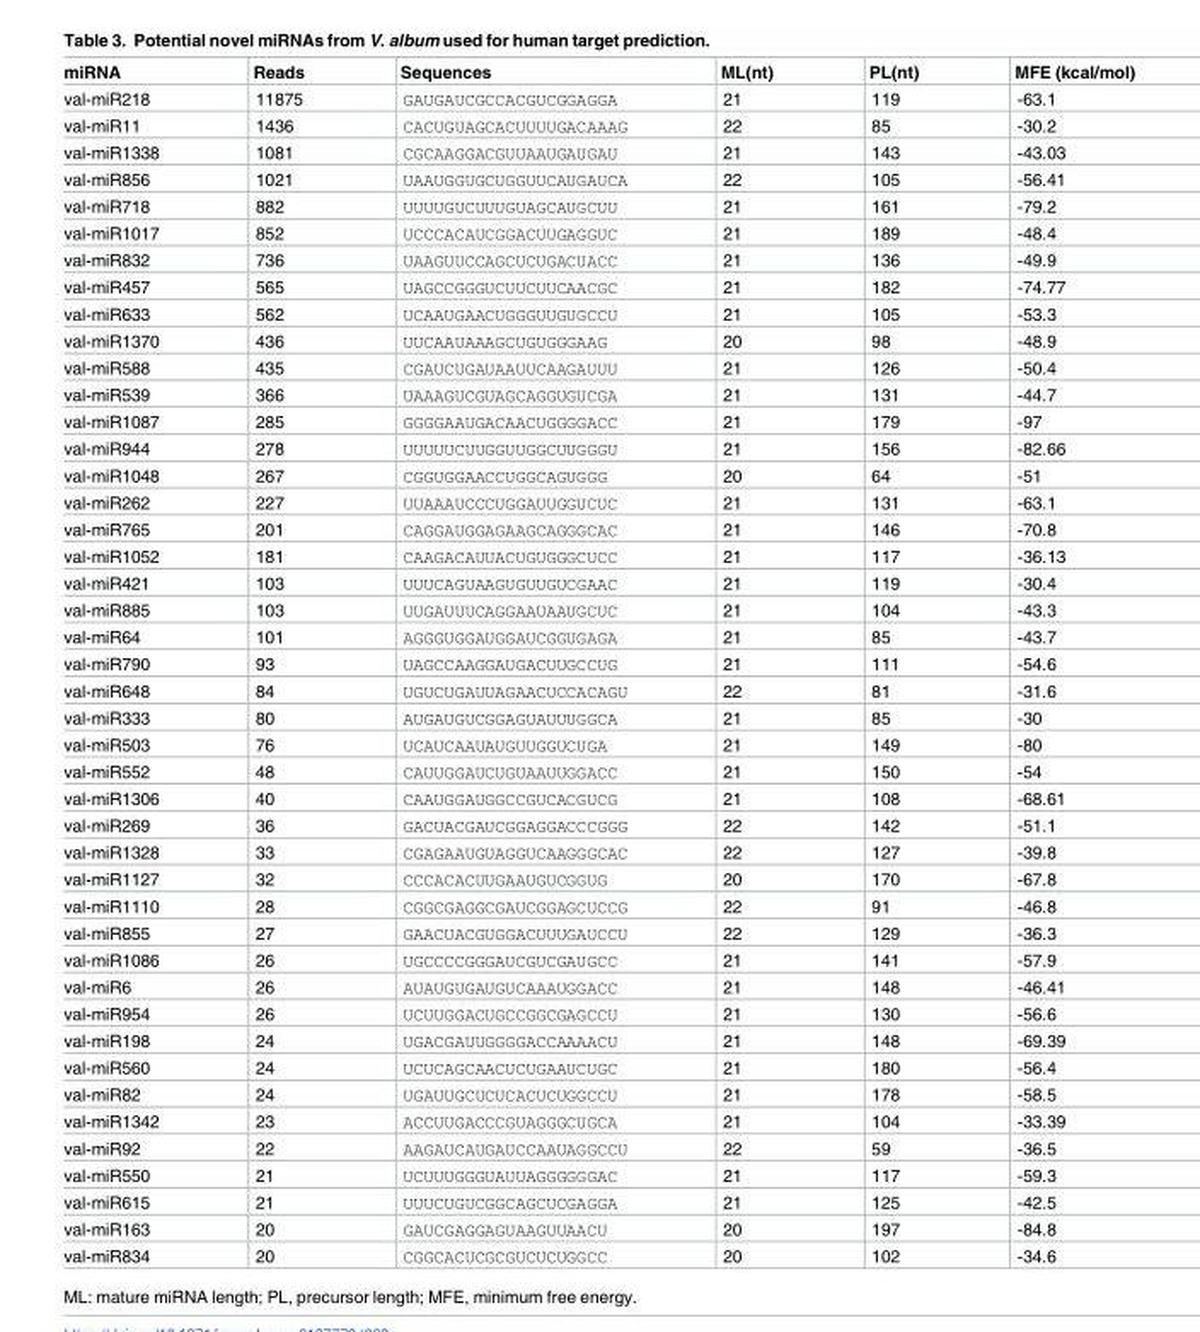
<table><thead><tr><td>miRNA</td><td>Reads</td><td>Sequences</td><td>ML(nt)</td><td>PL(nt)</td><td>MFE (kcal/mol)</td></tr></thead><tbody><tr><td>val-miR218</td><td>11875</td><td>GAUGAUCGCCACGUCGGAGGA</td><td>21</td><td>119</td><td>-63.1</td></tr><tr><td>val-miR11</td><td>1436</td><td>CACUGUAGCACUUUUGACAAAG</td><td>22</td><td>85</td><td>-30.2</td></tr><tr><td>val-miR1338</td><td>1081</td><td>CGCAAGGACGUUAAUGAUGAU</td><td>21</td><td>143</td><td>-43.03</td></tr><tr><td>val-miR856</td><td>1021</td><td>UAAUGGUGCUGGUUCAUGAUCA</td><td>22</td><td>105</td><td>-56.41</td></tr><tr><td>val-miR718</td><td>882</td><td>UUUUGUCUUUGUAGCAUGCUU</td><td>21</td><td>161</td><td>-79.2</td></tr><tr><td>val-miR1017</td><td>852</td><td>UCCCACAUCGGACUUGAGGUC</td><td>21</td><td>189</td><td>-48.4</td></tr><tr><td>val-miR832</td><td>736</td><td>UAAGUUCCAGCUCUGACUACC</td><td>21</td><td>136</td><td>-49.9</td></tr><tr><td>val-miR457</td><td>565</td><td>UAGCCGGGUCUUCUUCAACGC</td><td>21</td><td>182</td><td>-74.77</td></tr><tr><td>val-miR633</td><td>562</td><td>UCAAUGAACUGGGUUGUGCCU</td><td>21</td><td>105</td><td>-53.3</td></tr><tr><td>val-miR1370</td><td>436</td><td>UUCAAUAAAGCUGUGGGAAG</td><td>20</td><td>98</td><td>-48.9</td></tr><tr><td>val-miR588</td><td>435</td><td>CGAUCUGAUAAUUCAAGAUUU</td><td>21</td><td>126</td><td>-50.4</td></tr><tr><td>val-miR539</td><td>366</td><td>UAAAGUCGUAGCAGGUGUCGA</td><td>21</td><td>131</td><td>-44.7</td></tr><tr><td>val-miR1087</td><td>285</td><td>GGGGAAUGACAACUGGGGACC</td><td>21</td><td>179</td><td>-97</td></tr><tr><td>val-miR944</td><td>278</td><td>UUUUUCUUGGUUGGCUUGGGU</td><td>21</td><td>156</td><td>-82.66</td></tr><tr><td>val-miR1048</td><td>267</td><td>CGGUGGAACCUGGCAGUGGG</td><td>20</td><td>64</td><td>-51</td></tr><tr><td>val-miR262</td><td>227</td><td>UUAAAUCCCUGGAUUGGUCUC</td><td>21</td><td>131</td><td>-63.1</td></tr><tr><td>val-miR765</td><td>201</td><td>CAGGAUGGAGAAGCAGGGCAC</td><td>21</td><td>146</td><td>-70.8</td></tr><tr><td>val-miR1052</td><td>181</td><td>CAAGACAUUACUGUGGGCUCC</td><td>21</td><td>117</td><td>-36.13</td></tr><tr><td>val-miR421</td><td>103</td><td>UUUCAGUAAGUGUUGUCGAAC</td><td>21</td><td>119</td><td>-30.4</td></tr><tr><td>val-miR885</td><td>103</td><td>UUGAUUUCAGGAAUAAUGCUC</td><td>21</td><td>104</td><td>-43.3</td></tr><tr><td>val-miR64</td><td>101</td><td>AGGGUGGAUGGAUCGGUGAGA</td><td>21</td><td>85</td><td>-43.7</td></tr><tr><td>val-miR790</td><td>93</td><td>UAGCCAAGGAUGACUUGCCUG</td><td>21</td><td>111</td><td>-54.6</td></tr><tr><td>val-miR648</td><td>84</td><td>UGUCUGAUUAGAACUCCACAGU</td><td>22</td><td>81</td><td>-31.6</td></tr><tr><td>val-miR333</td><td>80</td><td>AUGAUGUCGGAGUAUUUGGCA</td><td>21</td><td>85</td><td>-30</td></tr><tr><td>val-miR503</td><td>76</td><td>UCAUCAAUAUGUUGGUCUGA</td><td>21</td><td>149</td><td>-80</td></tr><tr><td>val-miR552</td><td>48</td><td>CAUUGGAUCUGUAAUUGGACC</td><td>21</td><td>150</td><td>-54</td></tr><tr><td>val-miR1306</td><td>40</td><td>CAAUGGAUGGCCGUCACGUCG</td><td>21</td><td>108</td><td>-68.61</td></tr><tr><td>val-miR269</td><td>36</td><td>GACUACGAUCGGAGGACCCGGG</td><td>22</td><td>142</td><td>-51.1</td></tr><tr><td>val-miR1328</td><td>33</td><td>CGAGAAUGUAGGUCAAGGGCAC</td><td>22</td><td>127</td><td>-39.8</td></tr><tr><td>val-miR1127</td><td>32</td><td>CCCACACUUGAAUGUCGGUG</td><td>20</td><td>170</td><td>-67.8</td></tr><tr><td>val-miR1110</td><td>28</td><td>CGGCGAGGCGAUCGGAGCUCCG</td><td>22</td><td>91</td><td>-46.8</td></tr><tr><td>val-miR855</td><td>27</td><td>GAACUACGUGGACUUUGAUCCU</td><td>22</td><td>129</td><td>-36.3</td></tr><tr><td>val-miR1086</td><td>26</td><td>UGCCCCGGGAUCGUCGAUGCC</td><td>21</td><td>141</td><td>-57.9</td></tr><tr><td>val-miR6</td><td>26</td><td>AUAUGUGAUGUCAAAUGGACC</td><td>21</td><td>148</td><td>-46.41</td></tr><tr><td>val-miR954</td><td>26</td><td>UCUUGGACUGCCGGCGAGCCU</td><td>21</td><td>130</td><td>-56.6</td></tr><tr><td>val-miR198</td><td>24</td><td>UGACGAUUGGGGACCAAAACU</td><td>21</td><td>148</td><td>-69.39</td></tr><tr><td>val-miR560</td><td>24</td><td>UCUCAGCAACUCUGAAUCUGC</td><td>21</td><td>180</td><td>-56.4</td></tr><tr><td>val-miR82</td><td>24</td><td>UGAUUGCUCUCACUCUGGCCU</td><td>21</td><td>178</td><td>-58.5</td></tr><tr><td>val-miR1342</td><td>23</td><td>ACCUUGACCCGUAGGGCUGCA</td><td>21</td><td>104</td><td>-33.39</td></tr><tr><td>val-miR92</td><td>22</td><td>AAGAUCAUGAUCCAAUAGGCCU</td><td>22</td><td>59</td><td>-36.5</td></tr><tr><td>val-miR550</td><td>21</td><td>UCUUUGGGUAUUAGGGGGGAC</td><td>21</td><td>117</td><td>-59.3</td></tr><tr><td>val-miR615</td><td>21</td><td>UUUCUGUCGGCAGCUCGAGGA</td><td>21</td><td>125</td><td>-42.5</td></tr><tr><td>val-miR163</td><td>20</td><td>GAUCGAGGAGUAAGUUAACU</td><td>20</td><td>197</td><td>-84.8</td></tr><tr><td>val-miR834</td><td>20</td><td>CGGCACUCGCGUCUCUGGCC</td><td>20</td><td>102</td><td>-34.6</td></tr></tbody></table>